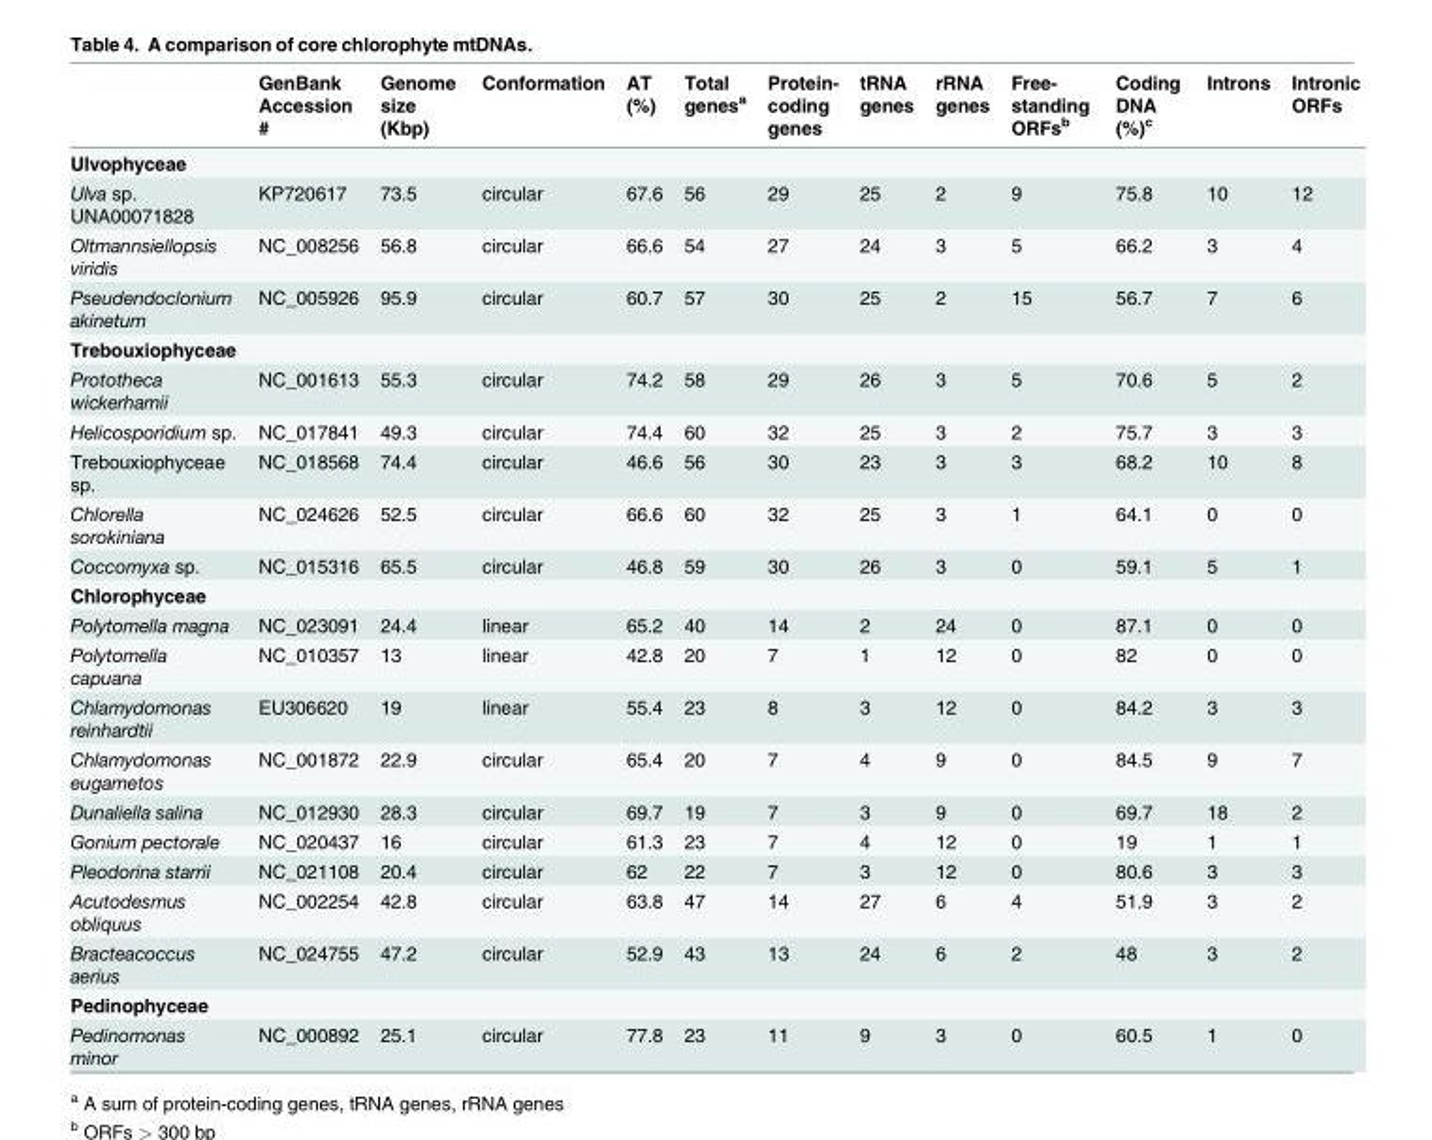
<table><thead><tr><td></td><td>GenBank Accession #</td><td>Genome size (Kbp)</td><td>Conformation</td><td>AT (%)</td><td>Total genes<sup>a</sup></td><td>Protein- coding genes</td><td>tRNA genes</td><td>rRNA genes</td><td>Free- standing ORFs<sup>b</sup></td><td>Coding DNA (%)<sup>c</sup></td><td>Introns</td><td>Intronic ORFs</td></tr></thead><tbody><tr><td colspan="13">Ulvophyceae</td></tr><tr><td>Ulva sp. UNA00071828</td><td>KP720617</td><td>73.5</td><td>circular</td><td>67.6</td><td>56</td><td>29</td><td>25</td><td>2</td><td>9</td><td>75.8</td><td>10</td><td>12</td></tr><tr><td>Oltmannsiellopsis viridis</td><td>NC_008256</td><td>56.8</td><td>circular</td><td>66.6</td><td>54</td><td>27</td><td>24</td><td>3</td><td>5</td><td>66.2</td><td>3</td><td>4</td></tr><tr><td>Pseudendoclonium akinetum</td><td>NC_005926</td><td>95.9</td><td>circular</td><td>60.7</td><td>57</td><td>30</td><td>25</td><td>2</td><td>15</td><td>56.7</td><td>7</td><td>6</td></tr><tr><td colspan="13">Trebouxiophyceae</td></tr><tr><td>Prototheca wickerhamii</td><td>NC_001613</td><td>55.3</td><td>circular</td><td>74.2</td><td>58</td><td>29</td><td>26</td><td>3</td><td>5</td><td>70.6</td><td>5</td><td>2</td></tr><tr><td>Helicosporidium sp.</td><td>NC_017841</td><td>49.3</td><td>circular</td><td>74.4</td><td>60</td><td>32</td><td>25</td><td>3</td><td>2</td><td>75.7</td><td>3</td><td>3</td></tr><tr><td>Trebouxiophyceae sp.</td><td>NC_018568</td><td>74.4</td><td>circular</td><td>46.6</td><td>56</td><td>30</td><td>23</td><td>3</td><td>3</td><td>68.2</td><td>10</td><td>8</td></tr><tr><td>Chlorella sorokiniana</td><td>NC_024626</td><td>52.5</td><td>circular</td><td>66.6</td><td>60</td><td>32</td><td>25</td><td>3</td><td>1</td><td>64.1</td><td>0</td><td>0</td></tr><tr><td>Coccomyxa sp.</td><td>NC_015316</td><td>65.5</td><td>circular</td><td>46.8</td><td>59</td><td>30</td><td>26</td><td>3</td><td>0</td><td>59.1</td><td>5</td><td>1</td></tr><tr><td colspan="13">Chlorophyceae</td></tr><tr><td>Polytomella magna</td><td>NC_023091</td><td>24.4</td><td>linear</td><td>65.2</td><td>40</td><td>14</td><td>2</td><td>24</td><td>0</td><td>87.1</td><td>0</td><td>0</td></tr><tr><td>Polytomella capuana</td><td>NC_010357</td><td>13</td><td>linear</td><td>42.8</td><td>20</td><td>7</td><td>1</td><td>12</td><td>0</td><td>82</td><td>0</td><td>0</td></tr><tr><td>Chlamydomonas reinhardtii</td><td>EU306620</td><td>19</td><td>linear</td><td>55.4</td><td>23</td><td>8</td><td>3</td><td>12</td><td>0</td><td>84.2</td><td>3</td><td>3</td></tr><tr><td>Chlamydomonas eugametos</td><td>NC_001872</td><td>22.9</td><td>circular</td><td>65.4</td><td>20</td><td>7</td><td>4</td><td>9</td><td>0</td><td>84.5</td><td>9</td><td>7</td></tr><tr><td>Dunaliella salina</td><td>NC_012930</td><td>28.3</td><td>circular</td><td>69.7</td><td>19</td><td>7</td><td>3</td><td>9</td><td>0</td><td>69.7</td><td>18</td><td>2</td></tr><tr><td>Gonium pectorale</td><td>NC_020437</td><td>16</td><td>circular</td><td>61.3</td><td>23</td><td>7</td><td>4</td><td>12</td><td>0</td><td>19</td><td>1</td><td>1</td></tr><tr><td>Pleodorina starrii</td><td>NC_021108</td><td>20.4</td><td>circular</td><td>62</td><td>22</td><td>7</td><td>3</td><td>12</td><td>0</td><td>80.6</td><td>3</td><td>3</td></tr><tr><td>Acutodesmus obliquus</td><td>NC_002254</td><td>42.8</td><td>circular</td><td>63.8</td><td>47</td><td>14</td><td>27</td><td>6</td><td>4</td><td>51.9</td><td>3</td><td>2</td></tr><tr><td>Bracteacoccus aerius</td><td>NC_024755</td><td>47.2</td><td>circular</td><td>52.9</td><td>43</td><td>13</td><td>24</td><td>6</td><td>2</td><td>48</td><td>3</td><td>2</td></tr><tr><td colspan="13">Pedinophyceae</td></tr><tr><td>Pedinomonas minor</td><td>NC_000892</td><td>25.1</td><td>circular</td><td>77.8</td><td>23</td><td>11</td><td>9</td><td>3</td><td>0</td><td>60.5</td><td>1</td><td>0</td></tr></tbody></table>